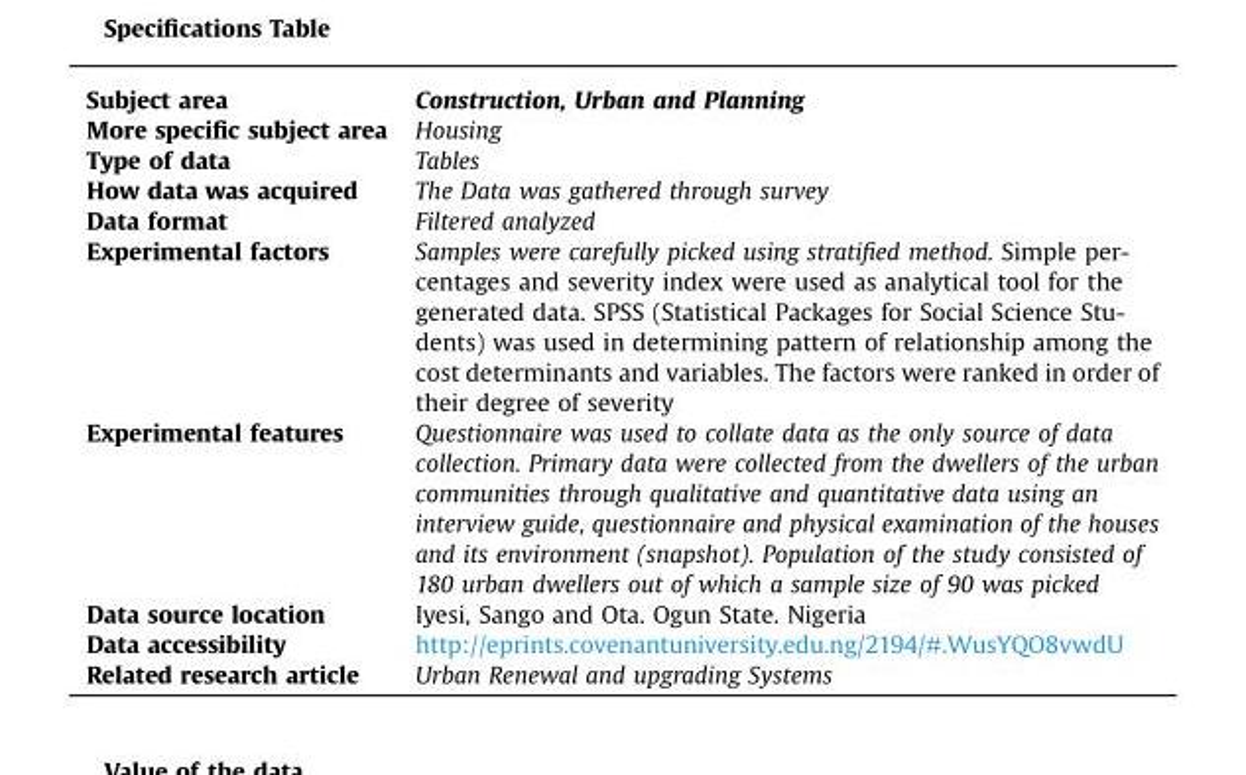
<table><tbody><tr><td>Subject area</td><td>Construction, Urban and Planning</td></tr><tr><td>More specific subject area</td><td>Housing</td></tr><tr><td>Type of data</td><td>Tables</td></tr><tr><td>How data was acquired</td><td>The Data was gathered through survey</td></tr><tr><td>Data format</td><td>Filtered analyzed</td></tr><tr><td>Experimental factors</td><td>Samples were carefully picked using stratified method. Simple per- centages and severity index were used as analytical tool for the generated data. SPSS (Statistical Packages for Social Science Stu- dents) was used in determining pattern of relationship among the cost determinants and variables. The factors were ranked in order of their degree of severity</td></tr><tr><td>Experimental features</td><td>Questionnaire was used to collate data as the only source of data collection. Primary data were collected from the dwellers of the urban communities through qualitative and quantitative data using an interview guide, questionnaire and physical examination of the houses and its environment (snapshot). Population of the study consisted of 180 urban dwellers out of which a sample size of 90 was picked</td></tr><tr><td>Data source location</td><td>Iyesi, Sango and Ota. Ogun State. Nigeria</td></tr><tr><td>Data accessibility</td><td>http://eprints.covenantuniversity.edu.ng/2194/#.WusYQO8vwdU</td></tr><tr><td>Related research article</td><td>Urban Renewal and upgrading Systems</td></tr></tbody></table>